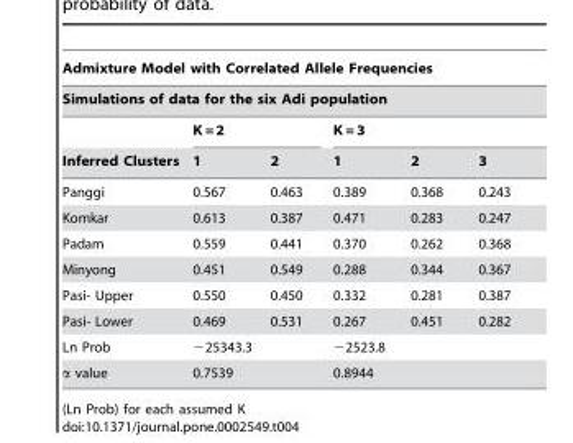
<table><thead><tr><td rowspan="2" colspan="6">Admixture Model with Correlated Allele Frequencies Simulations of data for the six Adi population</td></tr><tr></tr><tr><td rowspan="2">Inferred Clusters</td><td colspan="2">K = 2</td><td colspan="3">K = 3</td></tr><tr><td>1</td><td>2</td><td>1</td><td>2</td><td>3</td></tr></thead><tbody><tr><td>Panggi</td><td>0.567</td><td>0.463</td><td>0.389</td><td>0.368</td><td>0.243</td></tr><tr><td>Komkar</td><td>0.613</td><td>0.387</td><td>0.471</td><td>0.283</td><td>0.247</td></tr><tr><td>Padam</td><td>0.559</td><td>0.441</td><td>0.370</td><td>0.262</td><td>0.368</td></tr><tr><td>Minyong</td><td>0.451</td><td>0.549</td><td>0.288</td><td>0.344</td><td>0.367</td></tr><tr><td>Pasi- Upper</td><td>0.550</td><td>0.450</td><td>0.332</td><td>0.281</td><td>0.387</td></tr><tr><td>Pasi- Lower</td><td>0.469</td><td>0.531</td><td>0.267</td><td>0.451</td><td>0.282</td></tr><tr><td>Ln Prob</td><td colspan="2">−25343.3</td><td colspan="3">−2523.8</td></tr><tr><td>α value</td><td colspan="2">0.7539</td><td colspan="3">0.8944</td></tr></tbody></table>